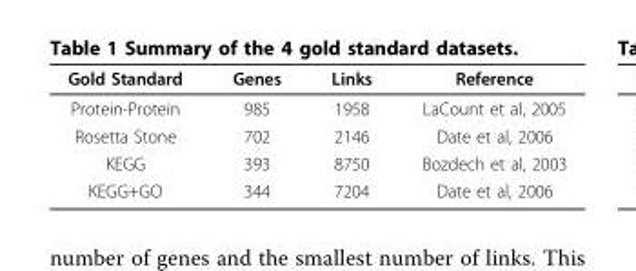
<table><thead><tr><td>Gold Standard</td><td>Genes</td><td>Links</td><td>Reference</td></tr></thead><tbody><tr><td>Protein-Protein</td><td>985</td><td>1958</td><td>LaCount et al, 2005</td></tr><tr><td>Rosetta Stone</td><td>702</td><td>2146</td><td>Date et al, 2006</td></tr><tr><td>KEGG</td><td>393</td><td>8750</td><td>Bozdech et al, 2003</td></tr><tr><td>KEGG+GO</td><td>344</td><td>7204</td><td>Date et al, 2006</td></tr></tbody></table>